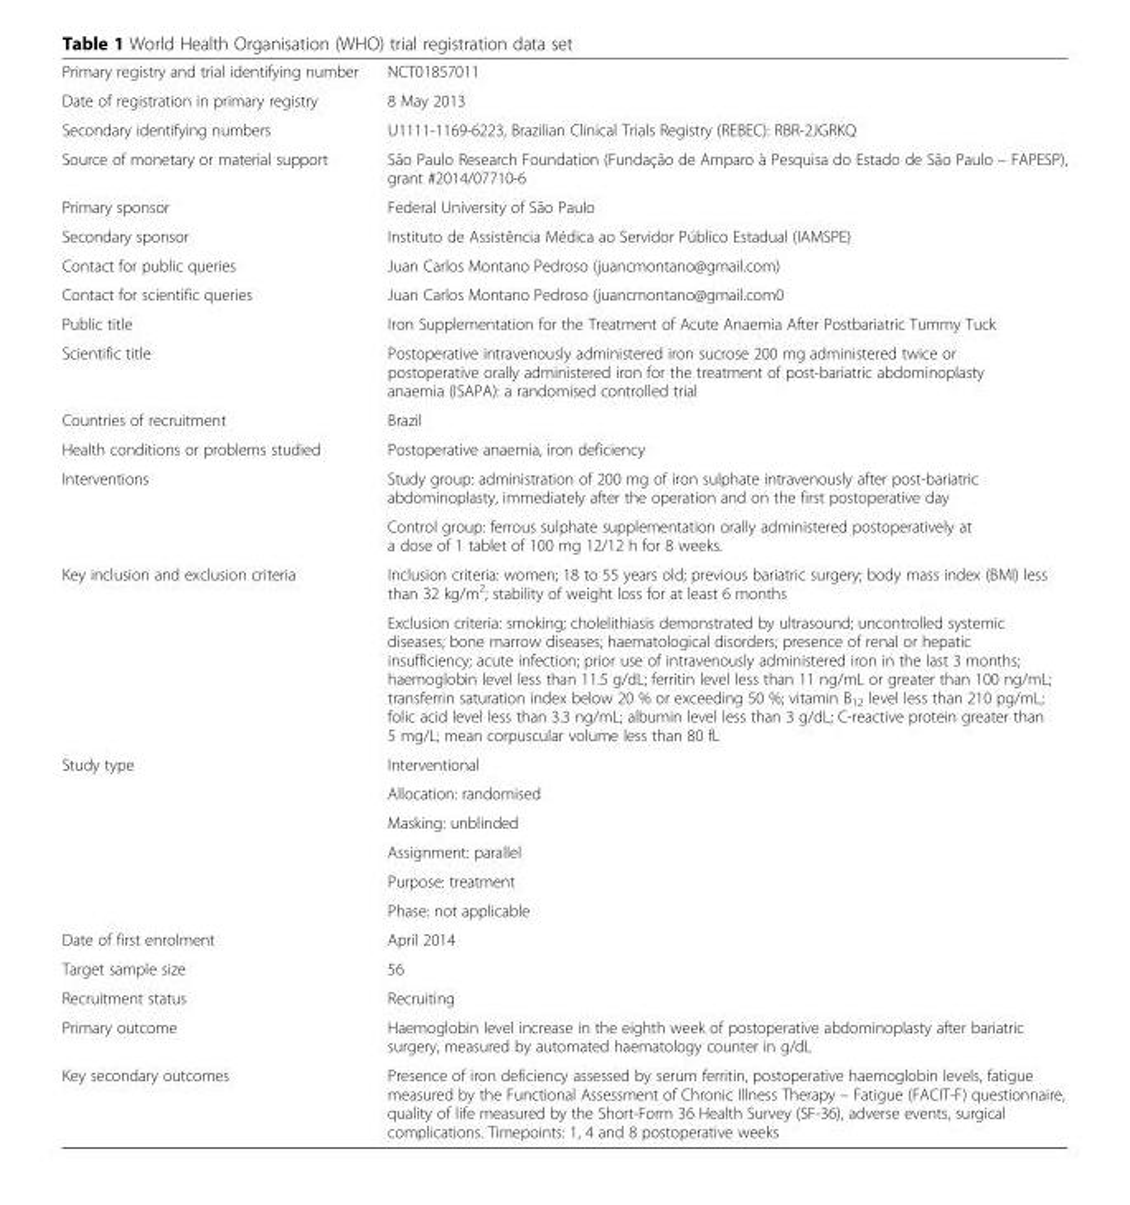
<table><tbody><tr><td>Primary registry and trial identifying number</td><td>NCT01857011</td></tr><tr><td>Date of registration in primary registry</td><td>8 May 2013</td></tr><tr><td>Secondary identifying numbers</td><td>U1111-1169-6223, Brazilian Clinical Trials Registry (REBEC): RBR-2JGRKQ</td></tr><tr><td>Source of monetary or material support</td><td>São Paulo Research Foundation (Fundação de Amparo à Pesquisa do Estado de São Paulo – FAPESP), grant #2014/07710-6</td></tr><tr><td>Primary sponsor</td><td>Federal University of São Paulo</td></tr><tr><td>Secondary sponsor</td><td>Instituto de Assistência Médica ao Servidor Público Estadual (IAMSPE)</td></tr><tr><td>Contact for public queries</td><td>Juan Carlos Montano Pedroso (juancmontano@gmail.com)</td></tr><tr><td>Contact for scientific queries</td><td>Juan Carlos Montano Pedroso (juancmontano@gmail.com0</td></tr><tr><td>Public title</td><td>Iron Supplementation for the Treatment of Acute Anaemia After Postbariatric Tummy Tuck</td></tr><tr><td>Scientific title</td><td>Postoperative intravenously administered iron sucrose 200 mg administered twice or postoperative orally administered iron for the treatment of post-bariatric abdominoplasty anaemia (ISAPA): a randomised controlled trial</td></tr><tr><td>Countries of recruitment</td><td>Brazil</td></tr><tr><td>Health conditions or problems studied</td><td>Postoperative anaemia, iron deficiency</td></tr><tr><td rowspan="2">Interventions</td><td>Study group: administration of 200 mg of iron sulphate intravenously after post-bariatric abdominoplasty, immediately after the operation and on the first postoperative day</td></tr><tr><td>Control group: ferrous sulphate supplementation orally administered postoperatively at a dose of 1 tablet of 100 mg 12/12 h for 8 weeks.</td></tr><tr><td rowspan="2">Key inclusion and exclusion criteria</td><td>Inclusion criteria: women; 18 to 55 years old; previous bariatric surgery; body mass index (BMI) less than 32 kg/m<sup>2</sup>; stability of weight loss for at least 6 months</td></tr><tr><td>Exclusion criteria: smoking; cholelithiasis demonstrated by ultrasound; uncontrolled systemic diseases; bone marrow diseases; haematological disorders; presence of renal or hepatic insufficiency; acute infection; prior use of intravenously administered iron in the last 3 months; haemoglobin level less than 11.5 g/dL; ferritin level less than 11 ng/mL or greater than 100 ng/mL; transferrin saturation index below 20 % or exceeding 50 %; vitamin B<sub>12</sub> level less than 210 pg/mL; folic acid level less than 3.3 ng/mL; albumin level less than 3 g/dL; C-reactive protein greater than 5 mg/L; mean corpuscular volume less than 80 fL</td></tr><tr><td rowspan="6">Study type</td><td>Interventional</td></tr><tr><td>Allocation: randomised</td></tr><tr><td>Masking: unblinded</td></tr><tr><td>Assignment: parallel</td></tr><tr><td>Purpose: treatment</td></tr><tr><td>Phase: not applicable</td></tr><tr><td>Date of first enrolment</td><td>April 2014</td></tr><tr><td>Target sample size</td><td>56</td></tr><tr><td>Recruitment status</td><td>Recruiting</td></tr><tr><td>Primary outcome</td><td>Haemoglobin level increase in the eighth week of postoperative abdominoplasty after bariatric surgery, measured by automated haematology counter in g/dL</td></tr><tr><td>Key secondary outcomes</td><td>Presence of iron deficiency assessed by serum ferritin, postoperative haemoglobin levels, fatigue measured by the Functional Assessment of Chronic Illness Therapy – Fatigue (FACIT-F) questionnaire, quality of life measured by the Short-Form 36 Health Survey (SF-36), adverse events, surgical complications. Timepoints: 1, 4 and 8 postoperative weeks</td></tr></tbody></table>